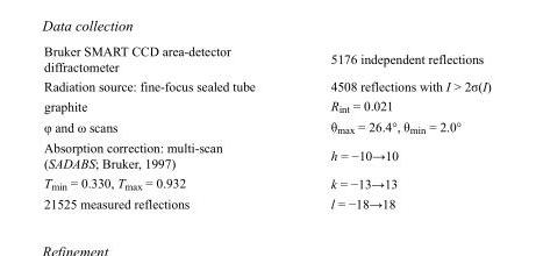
<table><tbody><tr><td>Bruker SMART CCD area-detector diffractometer</td><td>5176 independent reflections</td></tr><tr><td>Radiation source: fine-focus sealed tube</td><td>4508 reflections with I &gt; 2σ(I)</td></tr><tr><td>graphite</td><td>R<sub>int</sub> = 0.021</td></tr><tr><td>φ and ω scans</td><td>θ<sub>max</sub> = 26.4°, θ<sub>min</sub> = 2.0°</td></tr><tr><td>Absorption correction: multi-scan (SADABS; Bruker, 1997)</td><td>h = −10→10</td></tr><tr><td>T<sub>min</sub> = 0.330, T<sub>max</sub> = 0.932</td><td>k = −13→13</td></tr><tr><td>21525 measured reflections</td><td>l = −18→18</td></tr></tbody></table>